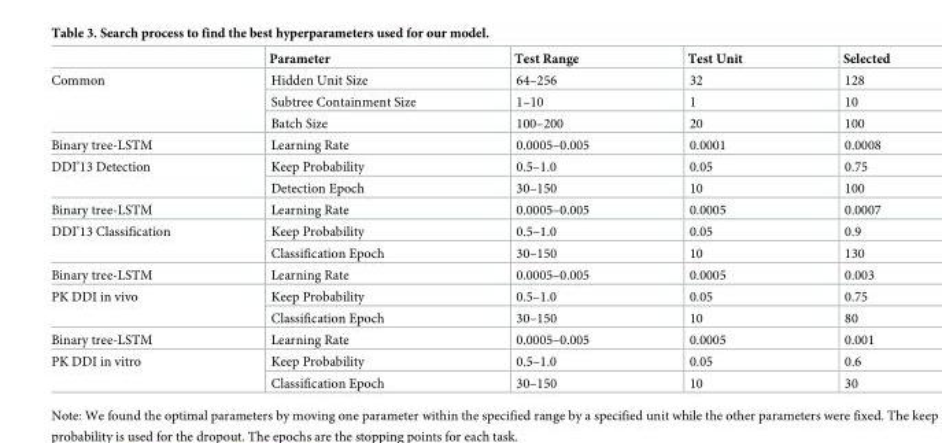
<table><thead><tr><td></td><td>Parameter</td><td>Test Range</td><td>Test Unit</td><td>Selected</td></tr></thead><tbody><tr><td rowspan="3">Common</td><td>Hidden Unit Size</td><td>64–256</td><td>32</td><td>128</td></tr><tr><td>Subtree Containment Size</td><td>1–10</td><td>1</td><td>10</td></tr><tr><td>Batch Size</td><td>100–200</td><td>20</td><td>100</td></tr><tr><td>Binary tree-LSTM</td><td>Learning Rate</td><td>0.0005–0.005</td><td>0.0001</td><td>0.0008</td></tr><tr><td rowspan="2">DDI’13 Detection</td><td>Keep Probability</td><td>0.5–1.0</td><td>0.05</td><td>0.75</td></tr><tr><td>Detection Epoch</td><td>30–150</td><td>10</td><td>100</td></tr><tr><td>Binary tree-LSTM</td><td>Learning Rate</td><td>0.0005–0.005</td><td>0.0005</td><td>0.0007</td></tr><tr><td rowspan="2">DDI’13 Classification</td><td>Keep Probability</td><td>0.5–1.0</td><td>0.05</td><td>0.9</td></tr><tr><td>Classification Epoch</td><td>30–150</td><td>10</td><td>130</td></tr><tr><td>Binary tree-LSTM</td><td>Learning Rate</td><td>0.0005–0.005</td><td>0.0005</td><td>0.003</td></tr><tr><td rowspan="2">PK DDI in vivo</td><td>Keep Probability</td><td>0.5–1.0</td><td>0.05</td><td>0.75</td></tr><tr><td>Classification Epoch</td><td>30–150</td><td>10</td><td>80</td></tr><tr><td>Binary tree-LSTM</td><td>Learning Rate</td><td>0.0005–0.005</td><td>0.0005</td><td>0.001</td></tr><tr><td rowspan="2">PK DDI in vitro</td><td>Keep Probability</td><td>0.5–1.0</td><td>0.05</td><td>0.6</td></tr><tr><td>Classification Epoch</td><td>30–150</td><td>10</td><td>30</td></tr></tbody></table>